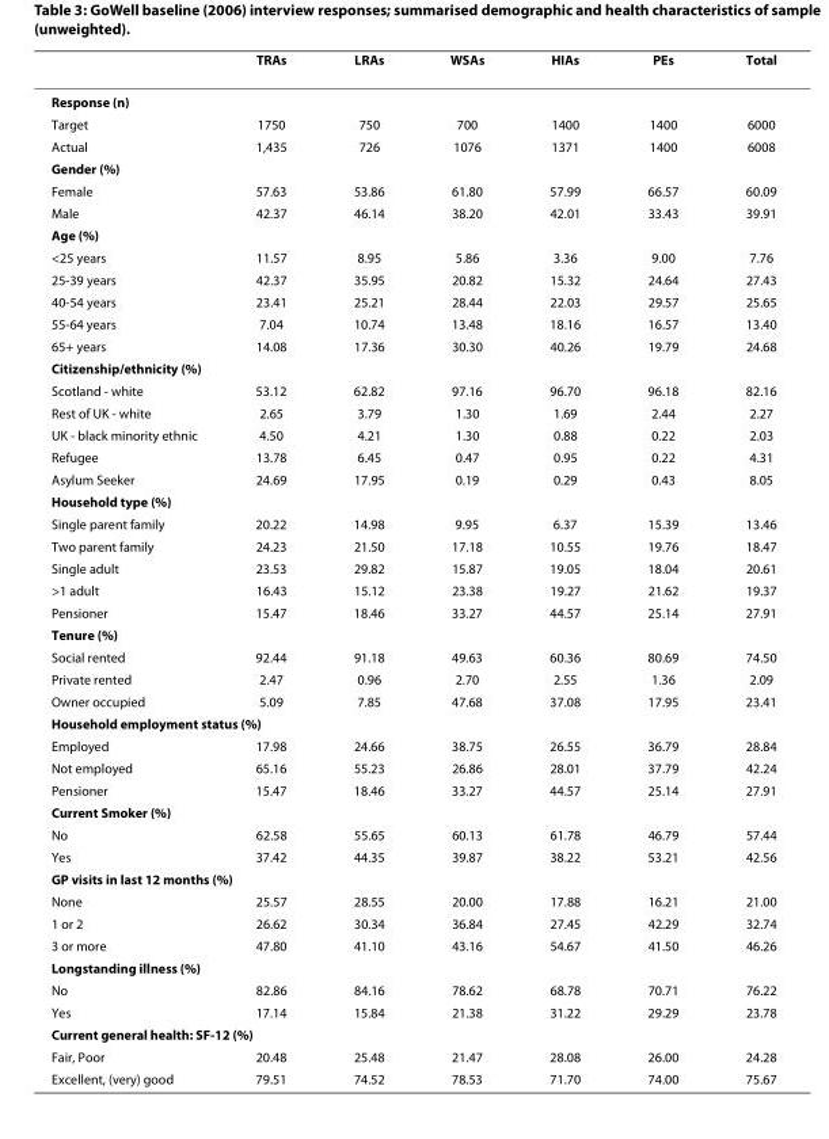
<table><thead><tr><td></td><td>TRAs</td><td>LRAs</td><td>WSAs</td><td>HIAs</td><td>PEs</td><td>Total</td></tr></thead><tbody><tr><td colspan="7">Response (n)</td></tr><tr><td>Target</td><td>1750</td><td>750</td><td>700</td><td>1400</td><td>1400</td><td>6000</td></tr><tr><td>Actual</td><td>1,435</td><td>726</td><td>1076</td><td>1371</td><td>1400</td><td>6008</td></tr><tr><td colspan="7">Gender (%)</td></tr><tr><td>Female</td><td>57.63</td><td>53.86</td><td>61.80</td><td>57.99</td><td>66.57</td><td>60.09</td></tr><tr><td>Male</td><td>42.37</td><td>46.14</td><td>38.20</td><td>42.01</td><td>33.43</td><td>39.91</td></tr><tr><td colspan="7">Age (%)</td></tr><tr><td>&lt;25 years</td><td>11.57</td><td>8.95</td><td>5.86</td><td>3.36</td><td>9.00</td><td>7.76</td></tr><tr><td>25-39 years</td><td>42.37</td><td>35.95</td><td>20.82</td><td>15.32</td><td>24.64</td><td>27.43</td></tr><tr><td>40-54 years</td><td>23.41</td><td>25.21</td><td>28.44</td><td>22.03</td><td>29.57</td><td>25.65</td></tr><tr><td>55-64 years</td><td>7.04</td><td>10.74</td><td>13.48</td><td>18.16</td><td>16.57</td><td>13.40</td></tr><tr><td>65+ years</td><td>14.08</td><td>17.36</td><td>30.30</td><td>40.26</td><td>19.79</td><td>24.68</td></tr><tr><td colspan="7">Citizenship/ethnicity (%)</td></tr><tr><td>Scotland - white</td><td>53.12</td><td>62.82</td><td>97.16</td><td>96.70</td><td>96.18</td><td>82.16</td></tr><tr><td>Rest of UK - white</td><td>2.65</td><td>3.79</td><td>1.30</td><td>1.69</td><td>2.44</td><td>2.27</td></tr><tr><td>UK - black minority ethnic</td><td>4.50</td><td>4.21</td><td>1.30</td><td>0.88</td><td>0.22</td><td>2.03</td></tr><tr><td>Refugee</td><td>13.78</td><td>6.45</td><td>0.47</td><td>0.95</td><td>0.22</td><td>4.31</td></tr><tr><td>Asylum Seeker</td><td>24.69</td><td>17.95</td><td>0.19</td><td>0.29</td><td>0.43</td><td>8.05</td></tr><tr><td colspan="7">Household type (%)</td></tr><tr><td>Single parent family</td><td>20.22</td><td>14.98</td><td>9.95</td><td>6.37</td><td>15.39</td><td>13.46</td></tr><tr><td>Two parent family</td><td>24.23</td><td>21.50</td><td>17.18</td><td>10.55</td><td>19.76</td><td>18.47</td></tr><tr><td>Single adult</td><td>23.53</td><td>29.82</td><td>15.87</td><td>19.05</td><td>18.04</td><td>20.61</td></tr><tr><td>&gt;1 adult</td><td>16.43</td><td>15.12</td><td>23.38</td><td>19.27</td><td>21.62</td><td>19.37</td></tr><tr><td>Pensioner</td><td>15.47</td><td>18.46</td><td>33.27</td><td>44.57</td><td>25.14</td><td>27.91</td></tr><tr><td colspan="7">Tenure (%)</td></tr><tr><td>Social rented</td><td>92.44</td><td>91.18</td><td>49.63</td><td>60.36</td><td>80.69</td><td>74.50</td></tr><tr><td>Private rented</td><td>2.47</td><td>0.96</td><td>2.70</td><td>2.55</td><td>1.36</td><td>2.09</td></tr><tr><td>Owner occupied</td><td>5.09</td><td>7.85</td><td>47.68</td><td>37.08</td><td>17.95</td><td>23.41</td></tr><tr><td colspan="7">Household employment status (%)</td></tr><tr><td>Employed</td><td>17.98</td><td>24.66</td><td>38.75</td><td>26.55</td><td>36.79</td><td>28.84</td></tr><tr><td>Not employed</td><td>65.16</td><td>55.23</td><td>26.86</td><td>28.01</td><td>37.79</td><td>42.24</td></tr><tr><td>Pensioner</td><td>15.47</td><td>18.46</td><td>33.27</td><td>44.57</td><td>25.14</td><td>27.91</td></tr><tr><td colspan="7">Current Smoker (%)</td></tr><tr><td>No</td><td>62.58</td><td>55.65</td><td>60.13</td><td>61.78</td><td>46.79</td><td>57.44</td></tr><tr><td>Yes</td><td>37.42</td><td>44.35</td><td>39.87</td><td>38.22</td><td>53.21</td><td>42.56</td></tr><tr><td colspan="7">GP visits in last 12 months (%)</td></tr><tr><td>None</td><td>25.57</td><td>28.55</td><td>20.00</td><td>17.88</td><td>16.21</td><td>21.00</td></tr><tr><td>1 or 2</td><td>26.62</td><td>30.34</td><td>36.84</td><td>27.45</td><td>42.29</td><td>32.74</td></tr><tr><td>3 or more</td><td>47.80</td><td>41.10</td><td>43.16</td><td>54.67</td><td>41.50</td><td>46.26</td></tr><tr><td colspan="7">Longstanding illness (%)</td></tr><tr><td>No</td><td>82.86</td><td>84.16</td><td>78.62</td><td>68.78</td><td>70.71</td><td>76.22</td></tr><tr><td>Yes</td><td>17.14</td><td>15.84</td><td>21.38</td><td>31.22</td><td>29.29</td><td>23.78</td></tr><tr><td colspan="7">Current general health: SF-12 (%)</td></tr><tr><td>Fair, Poor</td><td>20.48</td><td>25.48</td><td>21.47</td><td>28.08</td><td>26.00</td><td>24.28</td></tr><tr><td>Excellent, (very) good</td><td>79.51</td><td>74.52</td><td>78.53</td><td>71.70</td><td>74.00</td><td>75.67</td></tr></tbody></table>